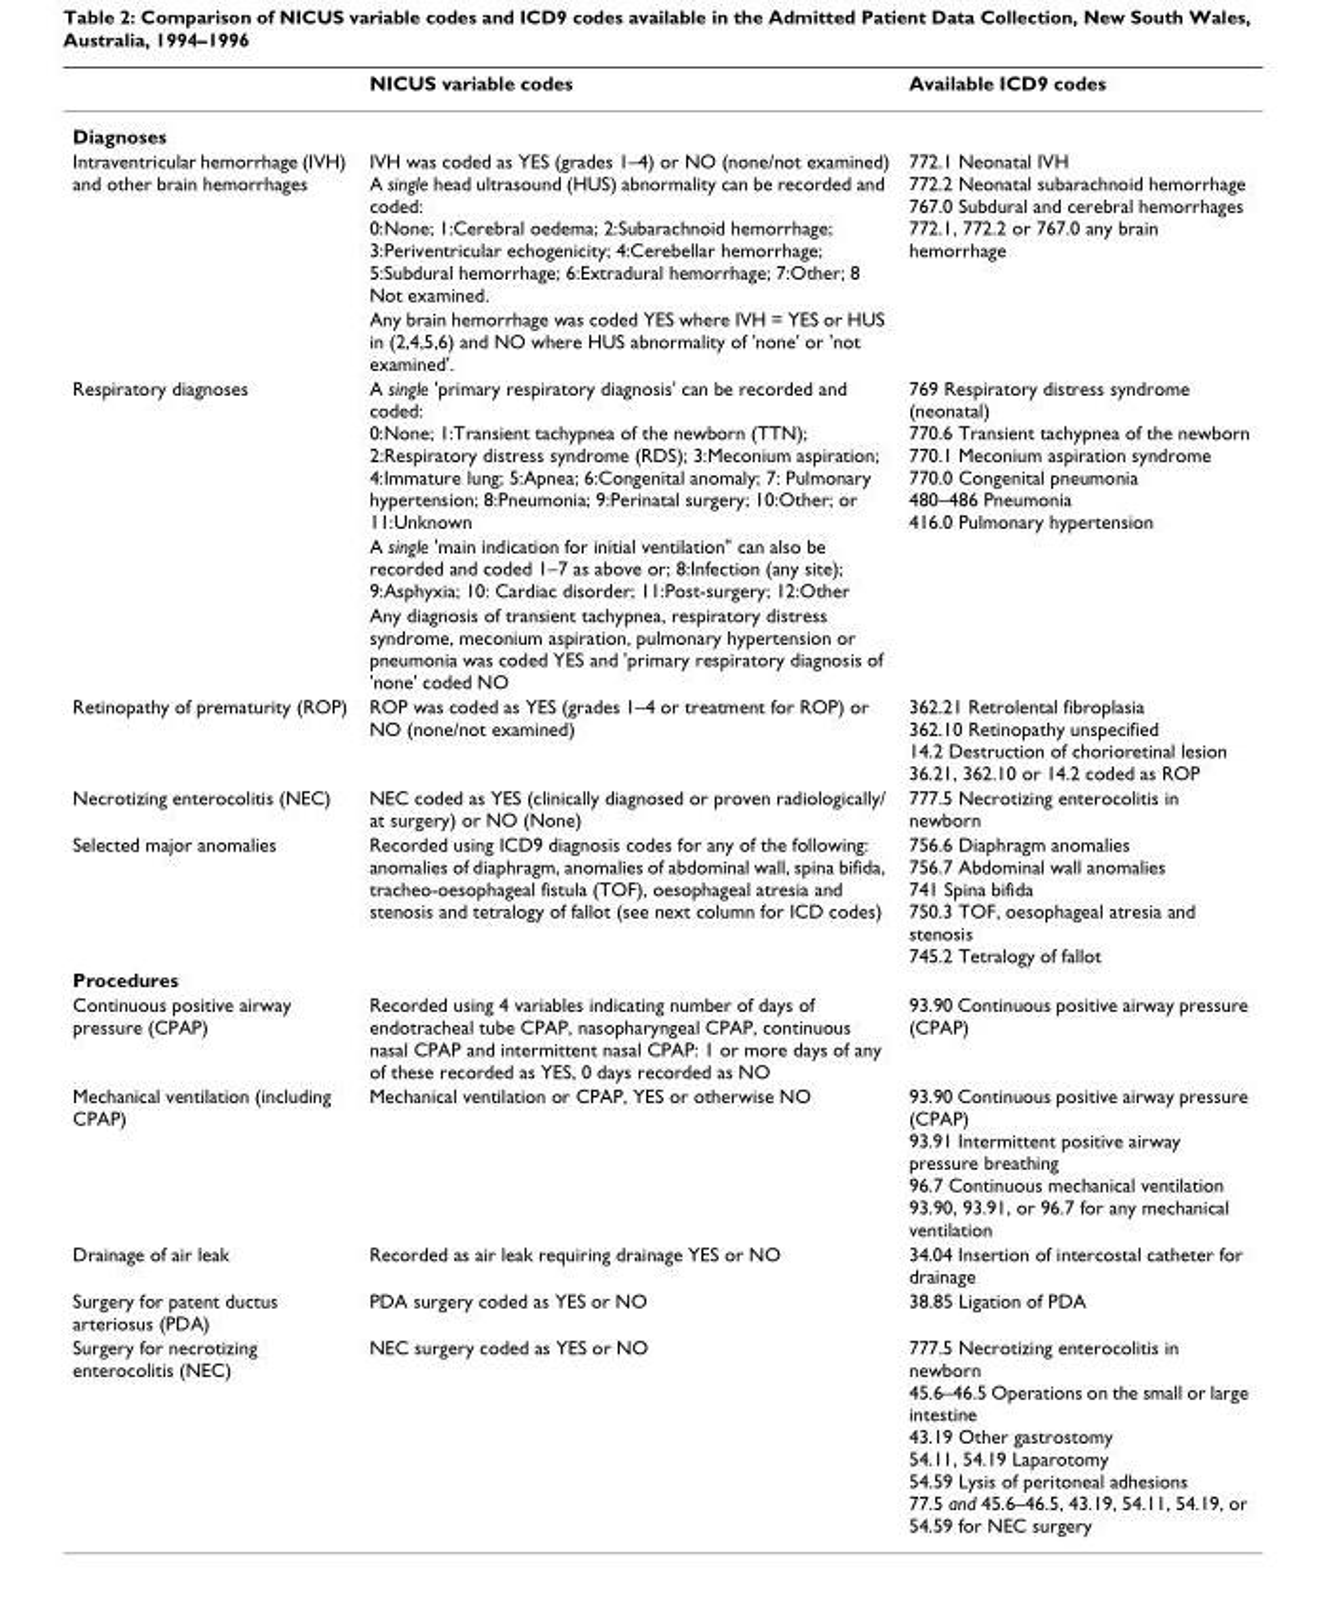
<table><thead><tr><td></td><td>NICUS variable codes</td><td>Available ICD9 codes</td></tr></thead><tbody><tr><td colspan="3">Diagnoses</td></tr><tr><td rowspan="2">Intraventricular hemorrhage (IVH) and other brain hemorrhages</td><td>IVH was coded as YES (grades 1–4) or NO (none/not examined) A single head ultrasound (HUS) abnormality can be recorded and coded: 0:None; 1:Cerebral oedema; 2:Subarachnoid hemorrhage; 3:Periventricular echogenicity; 4:Cerebellar hemorrhage; 5:Subdural hemorrhage; 6:Extradural hemorrhage; 7:Other; 8 Not examined.</td><td>772.1 Neonatal IVH 772.2 Neonatal subarachnoid hemorrhage 767.0 Subdural and cerebral hemorrhages 772.1, 772.2 or 767.0 any brain hemorrhage</td></tr><tr><td>Any brain hemorrhage was coded YES where IVH = YES or HUS in (2,4,5,6) and NO where HUS abnormality of &#x27;none&#x27; or &#x27;not examined&#x27;.</td><td></td></tr><tr><td rowspan="3">Respiratory diagnoses</td><td>A single &#x27;primary respiratory diagnosis&#x27; can be recorded and coded: 0:None; 1:Transient tachypnea of the newborn (TTN); 2:Respiratory distress syndrome (RDS); 3:Meconium aspiration; 4:Immature lung; 5:Apnea; 6:Congenital anomaly; 7: Pulmonary hypertension; 8:Pneumonia; 9:Perinatal surgery; 10:Other; or 11:Unknown</td><td>769 Respiratory distress syndrome (neonatal) 770.6 Transient tachypnea of the newborn 770.1 Meconium aspiration syndrome 770.0 Congenital pneumonia 480–486 Pneumonia 416.0 Pulmonary hypertension</td></tr><tr><td>A single &#x27;main indication for initial ventilation&quot; can also be recorded and coded 1–7 as above or; 8:Infection (any site); 9:Asphyxia; 10: Cardiac disorder; 11:Post-surgery; 12:Other</td><td></td></tr><tr><td>Any diagnosis of transient tachypnea, respiratory distress syndrome, meconium aspiration, pulmonary hypertension or pneumonia was coded YES and &#x27;primary respiratory diagnosis of &#x27;none&#x27; coded NO</td><td></td></tr><tr><td>Retinopathy of prematurity (ROP)</td><td>ROP was coded as YES (grades 1–4 or treatment for ROP) or NO (none/not examined)</td><td>362.21 Retrolental fibroplasia 362.10 Retinopathy unspecified 14.2 Destruction of chorioretinal lesion 36.21, 362.10 or 14.2 coded as ROP</td></tr><tr><td>Necrotizing enterocolitis (NEC)</td><td>NEC coded as YES (clinically diagnosed or proven radiologically/ at surgery) or NO (None)</td><td>777.5 Necrotizing enterocolitis in newborn</td></tr><tr><td>Selected major anomalies</td><td>Recorded using ICD9 diagnosis codes for any of the following: anomalies of diaphragm, anomalies of abdominal wall, spina bifida, tracheo-oesophageal fistula (TOF), oesophageal atresia and stenosis and tetralogy of fallot (see next column for ICD codes)</td><td>756.6 Diaphragm anomalies 756.7 Abdominal wall anomalies 741 Spina bifida 750.3 TOF, oesophageal atresia and stenosis 745.2 Tetralogy of fallot</td></tr><tr><td colspan="3">Procedures</td></tr><tr><td>Continuous positive airway pressure (CPAP)</td><td>Recorded using 4 variables indicating number of days of endotracheal tube CPAP, nasopharyngeal CPAP, continuous nasal CPAP and intermittent nasal CPAP: 1 or more days of any of these recorded as YES, 0 days recorded as NO</td><td>93.90 Continuous positive airway pressure (CPAP)</td></tr><tr><td>Mechanical ventilation (including CPAP)</td><td>Mechanical ventilation or CPAP, YES or otherwise NO</td><td>93.90 Continuous positive airway pressure (CPAP) 93.91 Intermittent positive airway pressure breathing 96.7 Continuous mechanical ventilation 93.90, 93.91, or 96.7 for any mechanical ventilation</td></tr><tr><td>Drainage of air leak</td><td>Recorded as air leak requiring drainage YES or NO</td><td>34.04 Insertion of intercostal catheter for drainage</td></tr><tr><td>Surgery for patent ductus arteriosus (PDA)</td><td>PDA surgery coded as YES or NO</td><td>38.85 Ligation of PDA</td></tr><tr><td>Surgery for necrotizing enterocolitis (NEC)</td><td>NEC surgery coded as YES or NO</td><td>777.5 Necrotizing enterocolitis in newborn 45.6–46.5 Operations on the small or large intestine 43.19 Other gastrostomy 54.11, 54.19 Laparotomy 54.59 Lysis of peritoneal adhesions 77.5 and 45.6–46.5, 43.19, 54.11, 54.19, or 54.59 for NEC surgery</td></tr></tbody></table>